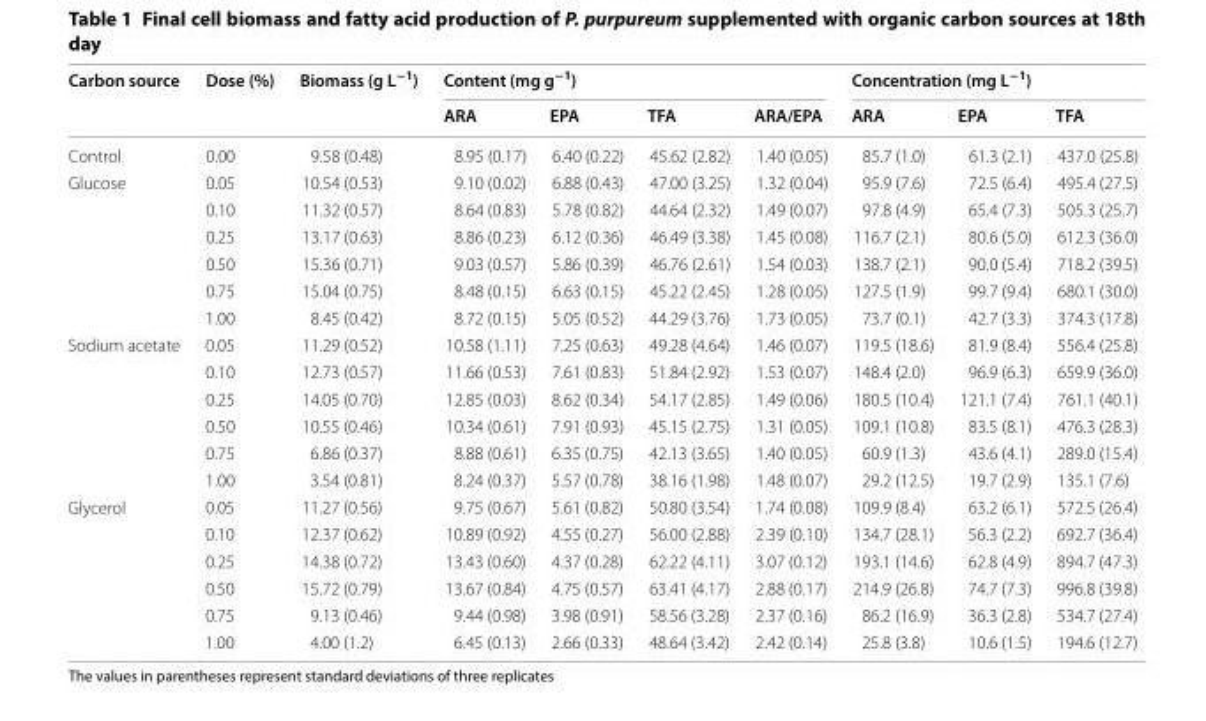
<table><thead><tr><td rowspan="2">Carbon source</td><td rowspan="2">Dose (%)</td><td rowspan="2">Biomass (g L<sup>−1</sup>)</td><td colspan="4">Content (mg g<sup>−1</sup>)</td><td colspan="3">Concentration (mg L<sup>−1</sup>)</td></tr><tr><td>ARA</td><td>EPA</td><td>TFA</td><td>ARA/EPA</td><td>ARA</td><td>EPA</td><td>TFA</td></tr></thead><tbody><tr><td>Control</td><td>0.00</td><td>9.58 (0.48)</td><td>8.95 (0.17)</td><td>6.40 (0.22)</td><td>45.62 (2.82)</td><td>1.40 (0.05)</td><td>85.7 (1.0)</td><td>61.3 (2.1)</td><td>437.0 (25.8)</td></tr><tr><td rowspan="6">Glucose</td><td>0.05</td><td>10.54 (0.53)</td><td>9.10 (0.02)</td><td>6.88 (0.43)</td><td>47.00 (3.25)</td><td>1.32 (0.04)</td><td>95.9 (7.6)</td><td>72.5 (6.4)</td><td>495.4 (27.5)</td></tr><tr><td>0.10</td><td>11.32 (0.57)</td><td>8.64 (0.83)</td><td>5.78 (0.82)</td><td>44.64 (2.32)</td><td>1.49 (0.07)</td><td>97.8 (4.9)</td><td>65.4 (7.3)</td><td>505.3 (25.7)</td></tr><tr><td>0.25</td><td>13.17 (0.63)</td><td>8.86 (0.23)</td><td>6.12 (0.36)</td><td>46.49 (3.38)</td><td>1.45 (0.08)</td><td>116.7 (2.1)</td><td>80.6 (5.0)</td><td>612.3 (36.0)</td></tr><tr><td>0.50</td><td>15.36 (0.71)</td><td>9.03 (0.57)</td><td>5.86 (0.39)</td><td>46.76 (2.61)</td><td>1.54 (0.03)</td><td>138.7 (2.1)</td><td>90.0 (5.4)</td><td>718.2 (39.5)</td></tr><tr><td>0.75</td><td>15.04 (0.75)</td><td>8.48 (0.15)</td><td>6.63 (0.15)</td><td>45.22 (2.45)</td><td>1.28 (0.05)</td><td>127.5 (1.9)</td><td>99.7 (9.4)</td><td>680.1 (30.0)</td></tr><tr><td>1.00</td><td>8.45 (0.42)</td><td>8.72 (0.15)</td><td>5.05 (0.52)</td><td>44.29 (3.76)</td><td>1.73 (0.05)</td><td>73.7 (0.1)</td><td>42.7 (3.3)</td><td>374.3 (17.8)</td></tr><tr><td rowspan="6">Sodium acetate</td><td>0.05</td><td>11.29 (0.52)</td><td>10.58 (1.11)</td><td>7.25 (0.63)</td><td>49.28 (4.64)</td><td>1.46 (0.07)</td><td>119.5 (18.6)</td><td>81.9 (8.4)</td><td>556.4 (25.8)</td></tr><tr><td>0.10</td><td>12.73 (0.57)</td><td>11.66 (0.53)</td><td>7.61 (0.83)</td><td>51.84 (2.92)</td><td>1.53 (0.07)</td><td>148.4 (2.0)</td><td>96.9 (6.3)</td><td>659.9 (36.0)</td></tr><tr><td>0.25</td><td>14.05 (0.70)</td><td>12.85 (0.03)</td><td>8.62 (0.34)</td><td>54.17 (2.85)</td><td>1.49 (0.06)</td><td>180.5 (10.4)</td><td>121.1 (7.4)</td><td>761.1 (40.1)</td></tr><tr><td>0.50</td><td>10.55 (0.46)</td><td>10.34 (0.61)</td><td>7.91 (0.93)</td><td>45.15 (2.75)</td><td>1.31 (0.05)</td><td>109.1 (10.8)</td><td>83.5 (8.1)</td><td>476.3 (28.3)</td></tr><tr><td>0.75</td><td>6.86 (0.37)</td><td>8.88 (0.61)</td><td>6.35 (0.75)</td><td>42.13 (3.65)</td><td>1.40 (0.05)</td><td>60.9 (1.3)</td><td>43.6 (4.1)</td><td>289.0 (15.4)</td></tr><tr><td>1.00</td><td>3.54 (0.81)</td><td>8.24 (0.37)</td><td>5.57 (0.78)</td><td>38.16 (1.98)</td><td>1.48 (0.07)</td><td>29.2 (12.5)</td><td>19.7 (2.9)</td><td>135.1 (7.6)</td></tr><tr><td rowspan="6">Glycerol</td><td>0.05</td><td>11.27 (0.56)</td><td>9.75 (0.67)</td><td>5.61 (0.82)</td><td>50.80 (3.54)</td><td>1.74 (0.08)</td><td>109.9 (8.4)</td><td>63.2 (6.1)</td><td>572.5 (26.4)</td></tr><tr><td>0.10</td><td>12.37 (0.62)</td><td>10.89 (0.92)</td><td>4.55 (0.27)</td><td>56.00 (2.88)</td><td>2.39 (0.10)</td><td>134.7 (28.1)</td><td>56.3 (2.2)</td><td>692.7 (36.4)</td></tr><tr><td>0.25</td><td>14.38 (0.72)</td><td>13.43 (0.60)</td><td>4.37 (0.28)</td><td>62.22 (4.11)</td><td>3.07 (0.12)</td><td>193.1 (14.6)</td><td>62.8 (4.9)</td><td>894.7 (47.3)</td></tr><tr><td>0.50</td><td>15.72 (0.79)</td><td>13.67 (0.84)</td><td>4.75 (0.57)</td><td>63.41 (4.17)</td><td>2.88 (0.17)</td><td>214.9 (26.8)</td><td>74.7 (7.3)</td><td>996.8 (39.8)</td></tr><tr><td>0.75</td><td>9.13 (0.46)</td><td>9.44 (0.98)</td><td>3.98 (0.91)</td><td>58.56 (3.28)</td><td>2.37 (0.16)</td><td>86.2 (16.9)</td><td>36.3 (2.8)</td><td>534.7 (27.4)</td></tr><tr><td>1.00</td><td>4.00 (1.2)</td><td>6.45 (0.13)</td><td>2.66 (0.33)</td><td>48.64 (3.42)</td><td>2.42 (0.14)</td><td>25.8 (3.8)</td><td>10.6 (1.5)</td><td>194.6 (12.7)</td></tr></tbody></table>